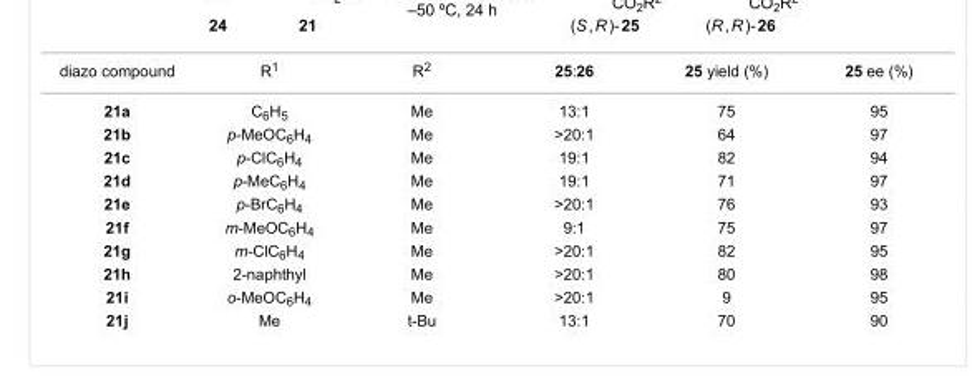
<table><tbody><tr><td>diazo compound</td><td>R<sup>1</sup></td><td>R<sup>2</sup></td><td>25:26</td><td>25 yield (%)</td><td>25 ee (%)</td></tr><tr><td>21a</td><td>C<sub>6</sub>H<sub>5</sub></td><td>Me</td><td>13:1</td><td>75</td><td>95</td></tr><tr><td>21b</td><td>p-MeOC<sub>6</sub>H<sub>4</sub></td><td>Me</td><td>&gt;20:1</td><td>64</td><td>97</td></tr><tr><td>21c</td><td>p-ClC<sub>6</sub>H<sub>4</sub></td><td>Me</td><td>19:1</td><td>82</td><td>94</td></tr><tr><td>21d</td><td>p-MeC<sub>6</sub>H<sub>4</sub></td><td>Me</td><td>19:1</td><td>71</td><td>97</td></tr><tr><td>21e</td><td>p-BrC<sub>6</sub>H<sub>4</sub></td><td>Me</td><td>&gt;20:1</td><td>76</td><td>93</td></tr><tr><td>21f</td><td>m-MeOC<sub>6</sub>H<sub>4</sub></td><td>Me</td><td>9:1</td><td>75</td><td>97</td></tr><tr><td>21g</td><td>m-ClC<sub>6</sub>H<sub>4</sub></td><td>Me</td><td>&gt;20:1</td><td>82</td><td>95</td></tr><tr><td>21h</td><td>2-naphthyl</td><td>Me</td><td>&gt;20:1</td><td>80</td><td>98</td></tr><tr><td>21i</td><td>o-MeOC<sub>6</sub>H<sub>4</sub></td><td>Me</td><td>&gt;20:1</td><td>9</td><td>95</td></tr><tr><td>21j</td><td>Me</td><td>t-Bu</td><td>13:1</td><td>70</td><td>90</td></tr></tbody></table>